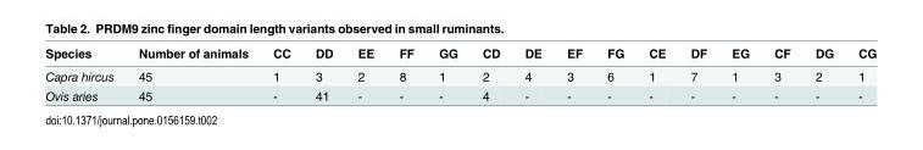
<table><thead><tr><td>Species</td><td>Number of animals</td><td>CC</td><td>DD</td><td>EE</td><td>FF</td><td>GG</td><td>CD</td><td>DE</td><td>EF</td><td>FG</td><td>CE</td><td>DF</td><td>EG</td><td>CF</td><td>DG</td><td>CG</td></tr></thead><tbody><tr><td>Capra hircus</td><td>45</td><td>1</td><td>3</td><td>2</td><td>8</td><td>1</td><td>2</td><td>4</td><td>3</td><td>6</td><td>1</td><td>7</td><td>1</td><td>3</td><td>2</td><td>1</td></tr><tr><td>Ovis aries</td><td>45</td><td>-</td><td>41</td><td>-</td><td>-</td><td>-</td><td>4</td><td>-</td><td>-</td><td>-</td><td>-</td><td>-</td><td>-</td><td>-</td><td>-</td><td>-</td></tr></tbody></table>